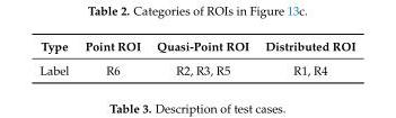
<table><thead><tr><td>Type</td><td>Point ROI</td><td>Quasi-Point ROI</td><td>Distributed ROI</td></tr></thead><tbody><tr><td>Label</td><td>R6</td><td>R2, R3, R5</td><td>R1, R4</td></tr></tbody></table>